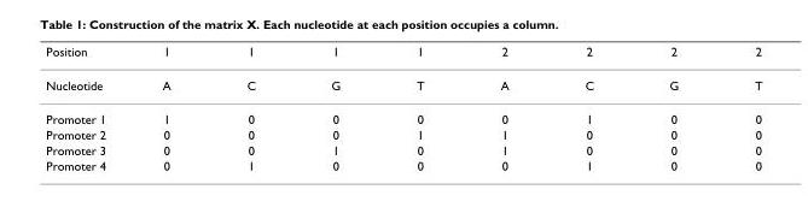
<table><thead><tr><td>Position</td><td>1</td><td>1</td><td>1</td><td>1</td><td>2</td><td>2</td><td>2</td><td>2</td></tr></thead><tbody><tr><td>Nucleotide</td><td>A</td><td>C</td><td>G</td><td>T</td><td>A</td><td>C</td><td>G</td><td>T</td></tr><tr><td>Promoter 1</td><td>1</td><td>0</td><td>0</td><td>0</td><td>0</td><td>1</td><td>0</td><td>0</td></tr><tr><td>Promoter 2</td><td>0</td><td>0</td><td>0</td><td>1</td><td>1</td><td>0</td><td>0</td><td>0</td></tr><tr><td>Promoter 3</td><td>0</td><td>0</td><td>1</td><td>0</td><td>1</td><td>0</td><td>0</td><td>0</td></tr><tr><td>Promoter 4</td><td>0</td><td>1</td><td>0</td><td>0</td><td>0</td><td>1</td><td>0</td><td>0</td></tr></tbody></table>